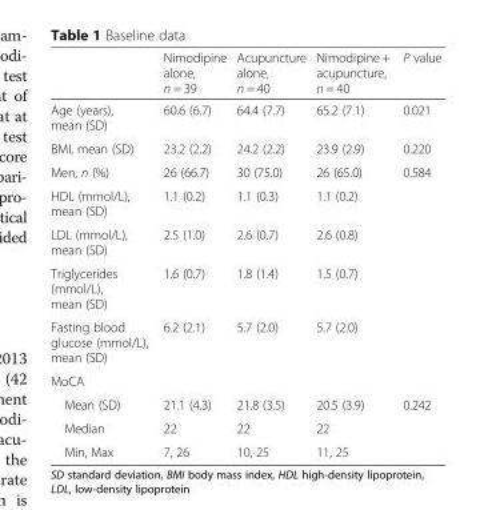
<table><thead><tr><td></td><td>Nimodipine alone, n = 39</td><td>Acupuncture alone, n = 40</td><td>Nimodipine + acupuncture, n = 40</td><td>P value</td></tr></thead><tbody><tr><td>Age (years), mean (SD)</td><td>60.6 (6.7)</td><td>64.4 (7.7)</td><td>65.2 (7.1)</td><td>0.021</td></tr><tr><td>BMI, mean (SD)</td><td>23.2 (2.2)</td><td>24.2 (2.2)</td><td>23.9 (2.9)</td><td>0.220</td></tr><tr><td>Men, n (%)</td><td>26 (66.7)</td><td>30 (75.0)</td><td>26 (65.0)</td><td>0.584</td></tr><tr><td>HDL (mmol/L), mean (SD)</td><td>1.1 (0.2)</td><td>1.1 (0.3)</td><td>1.1 (0.2)</td><td></td></tr><tr><td>LDL (mmol/L), mean (SD)</td><td>2.5 (1.0)</td><td>2.6 (0.7)</td><td>2.6 (0.8)</td><td></td></tr><tr><td>Triglycerides (mmol/L), mean (SD)</td><td>1.6 (0.7)</td><td>1.8 (1.4)</td><td>1.5 (0.7)</td><td></td></tr><tr><td>Fasting blood glucose (mmol/L), mean (SD)</td><td>6.2 (2.1)</td><td>5.7 (2.0)</td><td>5.7 (2.0)</td><td></td></tr><tr><td colspan="5">MoCA</td></tr><tr><td>Mean (SD)</td><td>21.1 (4.3)</td><td>21.8 (3.5)</td><td>20.5 (3.9)</td><td>0.242</td></tr><tr><td>Median</td><td>22</td><td>22</td><td>22</td><td></td></tr><tr><td>Min, Max</td><td>7, 26</td><td>10, 25</td><td>11, 25</td><td></td></tr></tbody></table>